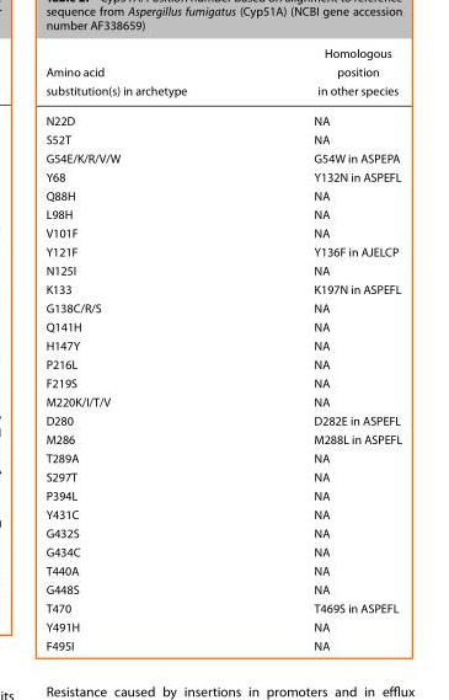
<table><thead><tr><td>Amino acid substitution(s) in archetype</td><td>Homologous position in other species</td></tr></thead><tbody><tr><td>N22D</td><td>NA</td></tr><tr><td>S52T</td><td>NA</td></tr><tr><td>G54E/K/R/V/W</td><td>G54W in ASPEPA</td></tr><tr><td>Y68</td><td>Y132N in ASPEFL</td></tr><tr><td>Q88H</td><td>NA</td></tr><tr><td>L98H</td><td>NA</td></tr><tr><td>V101F</td><td>NA</td></tr><tr><td>Y121F</td><td>Y136F in AJELCP</td></tr><tr><td>N125I</td><td>NA</td></tr><tr><td>K133</td><td>K197N in ASPEFL</td></tr><tr><td>G138C/R/S</td><td>NA</td></tr><tr><td>Q141H</td><td>NA</td></tr><tr><td>H147Y</td><td>NA</td></tr><tr><td>P216L</td><td>NA</td></tr><tr><td>F219S</td><td>NA</td></tr><tr><td>M220K/I/T/V</td><td>NA</td></tr><tr><td>D280</td><td>D282E in ASPEFL</td></tr><tr><td>M286</td><td>M288L in ASPEFL</td></tr><tr><td>T289A</td><td>NA</td></tr><tr><td>S297T</td><td>NA</td></tr><tr><td>P394L</td><td>NA</td></tr><tr><td>Y431C</td><td>NA</td></tr><tr><td>G432S</td><td>NA</td></tr><tr><td>G434C</td><td>NA</td></tr><tr><td>T440A</td><td>NA</td></tr><tr><td>G448S</td><td>NA</td></tr><tr><td>T470</td><td>T469S in ASPEFL</td></tr><tr><td>Y491H</td><td>NA</td></tr><tr><td>F495I</td><td>NA</td></tr></tbody></table>